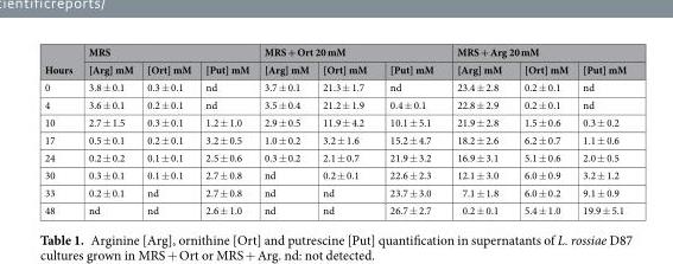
<table><thead><tr><td rowspan="2">Hours</td><td colspan="3">MRS</td><td colspan="3">MRS + Ort 20 mM</td><td colspan="3">MRS + Arg 20 mM</td></tr><tr><td>[Arg] mM</td><td>[Ort] mM</td><td>[Put] mM</td><td>[Arg] mM</td><td>[Ort] mM</td><td>[Put] mM</td><td>[Arg] mM</td><td>[Ort] mM</td><td>[Put] mM</td></tr></thead><tbody><tr><td>0</td><td>3.8 ± 0.1</td><td>0.3 ± 0.1</td><td>nd</td><td>3.7 ± 0.1</td><td>21.3 ± 1.7</td><td>nd</td><td>23.4 ± 2.8</td><td>0.2 ± 0.1</td><td>nd</td></tr><tr><td>4</td><td>3.6 ± 0.1</td><td>0.2 ± 0.1</td><td>nd</td><td>3.5 ± 0.4</td><td>21.2 ± 1.9</td><td>0.4 ± 0.1</td><td>22.8 ± 2.9</td><td>0.2 ± 0.1</td><td>nd</td></tr><tr><td>10</td><td>2.7 ± 1.5</td><td>0.3 ± 0.1</td><td>1.2 ± 1.0</td><td>2.9 ± 0.5</td><td>11.9 ± 4.2</td><td>10.1 ± 5.1</td><td>21.9 ± 2.8</td><td>1.5 ± 0.6</td><td>0.3 ± 0.2</td></tr><tr><td>17</td><td>0.5 ± 0.1</td><td>0.2 ± 0.1</td><td>3.2 ± 0.5</td><td>1.0 ± 0.2</td><td>3.2 ± 1.6</td><td>15.2 ± 4.7</td><td>18.2 ± 2.6</td><td>6.2 ± 0.7</td><td>1.1 ± 0.6</td></tr><tr><td>24</td><td>0.2 ± 0.2</td><td>0.1 ± 0.1</td><td>2.5 ± 0.6</td><td>0.3 ± 0.2</td><td>2.1 ± 0.7</td><td>21.9 ± 3.2</td><td>16.9 ± 3.1</td><td>5.1 ± 0.6</td><td>2.0 ± 0.5</td></tr><tr><td>30</td><td>0.3 ± 0.1</td><td>0.1 ± 0.1</td><td>2.7 ± 0.8</td><td>nd</td><td>0.2 ± 0.1</td><td>22.6 ± 2.3</td><td>12.1 ± 3.0</td><td>6.0 ± 0.9</td><td>3.2 ± 1.2</td></tr><tr><td>33</td><td>0.2 ± 0.1</td><td>nd</td><td>2.7 ± 0.8</td><td>nd</td><td>nd</td><td>23.7 ± 3.0</td><td>7.1 ± 1.8</td><td>6.0 ± 0.2</td><td>9.1 ± 0.9</td></tr><tr><td>48</td><td>nd</td><td>nd</td><td>2.6 ± 1.0</td><td>nd</td><td>nd</td><td>26.7 ± 2.7</td><td>0.2 ± 0.1</td><td>5.4 ± 1.0</td><td>19.9 ± 5.1</td></tr></tbody></table>